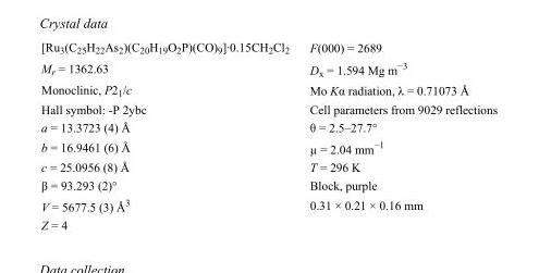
<table><tbody><tr><td>[Ru<sub>3</sub>(C<sub>25</sub>H<sub>22</sub>As<sub>2</sub>)(C<sub>20</sub>H<sub>19</sub>O<sub>2</sub>P)(CO)<sub>9</sub>]·0.15CH<sub>2</sub>Cl<sub>2</sub></td><td>F(000) = 2689</td></tr><tr><td>M<sub>r</sub> = 1362.63</td><td>D<sub>x</sub> = 1.594 Mg m<sup>−3</sup></td></tr><tr><td>Monoclinic, P2<sub>1</sub>/c</td><td>Mo Kα radiation, λ = 0.71073 Å</td></tr><tr><td>Hall symbol: -P 2ybc</td><td>Cell parameters from 9029 reflections</td></tr><tr><td>a = 13.3723 (4) Å</td><td>θ = 2.5–27.7°</td></tr><tr><td>b = 16.9461 (6) Å</td><td>µ = 2.04 mm<sup>−1</sup></td></tr><tr><td>c = 25.0956 (8) Å</td><td>T = 296 K</td></tr><tr><td>β = 93.293 (2)°</td><td>Block, purple</td></tr><tr><td>V = 5677.5 (3) Å<sup>3</sup></td><td>0.31 × 0.21 × 0.16 mm</td></tr><tr><td>Z = 4</td><td></td></tr></tbody></table>